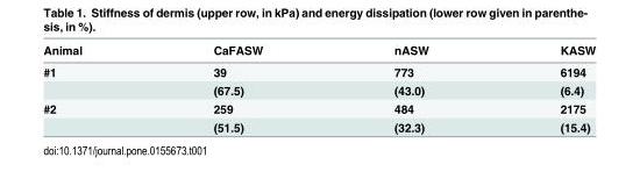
<table><thead><tr><td>Animal</td><td>CaFASW</td><td>nASW</td><td>KASW</td></tr></thead><tbody><tr><td rowspan="2">#1</td><td>39</td><td>773</td><td>6194</td></tr><tr><td>(67.5)</td><td>(43.0)</td><td>(6.4)</td></tr><tr><td rowspan="2">#2</td><td>259</td><td>484</td><td>2175</td></tr><tr><td>(51.5)</td><td>(32.3)</td><td>(15.4)</td></tr></tbody></table>